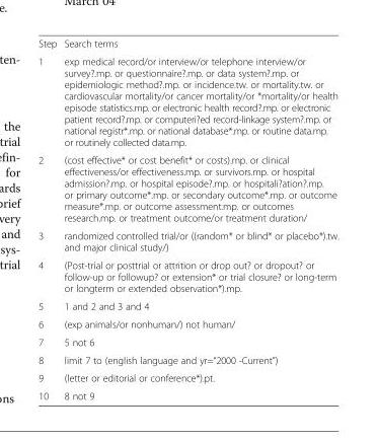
<table><tbody><tr><td>Step</td><td>Search terms</td></tr><tr><td>1</td><td>exp medical record/or interview/or telephone interview/or survey?.mp. or questionnaire?.mp. or data system?.mp. or epidemiologic method?.mp. or incidence.tw. or mortality.tw. or cardiovascular mortality/or cancer mortality/or *mortality/or health episode statistics.mp. or electronic health record?.mp. or electronic patient record?.mp. or computeri?ed record-linkage system?.mp. or national registr*.mp. or national database*.mp. or routine data.mp. or routinely collected data.mp.</td></tr><tr><td>2</td><td>(cost effective* or cost benefit* or costs).mp. or clinical effectiveness/or effectiveness.mp. or survivors.mp. or hospital admission?.mp. or hospital episode?.mp. or hospitali?ation?.mp. or primary outcome*.mp. or secondary outcome*.mp. or outcome measure*.mp. or outcome assessment.mp. or outcomes research.mp. or treatment outcome/or treatment duration/</td></tr><tr><td>3</td><td>randomized controlled trial/or ((random* or blind* or placebo*).tw. and major clinical study/)</td></tr><tr><td>4</td><td>(Post-trial or posttrial or attrition or drop out? or dropout? or follow-up or followup? or extension* or trial closure? or long-term or longterm or extended observation*).mp.</td></tr><tr><td>5</td><td>1 and 2 and 3 and 4</td></tr><tr><td>6</td><td>(exp animals/or nonhuman/) not human/</td></tr><tr><td>7</td><td>5 not 6</td></tr><tr><td>8</td><td>limit 7 to (english language and yr=“2000 -Current”)</td></tr><tr><td>9</td><td>(letter or editorial or conference*).pt.</td></tr><tr><td>10</td><td>8 not 9</td></tr></tbody></table>